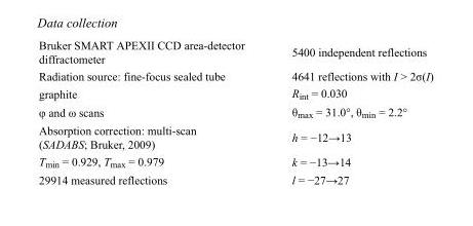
<table><tbody><tr><td>Bruker SMART APEXII CCD area-detector diffractometer</td><td>5400 independent reflections</td></tr><tr><td>Radiation source: fine-focus sealed tube</td><td>4641 reflections with I &gt; 2σ(I)</td></tr><tr><td>graphite</td><td>R<sub>int</sub> = 0.030</td></tr><tr><td>φ and ω scans</td><td>θ<sub>max</sub> = 31.0°, θ<sub>min</sub> = 2.2°</td></tr><tr><td>Absorption correction: multi-scan (SADABS; Bruker, 2009)</td><td>h = −12→13</td></tr><tr><td>T<sub>min</sub> = 0.929, T<sub>max</sub> = 0.979</td><td>k = −13→14</td></tr><tr><td>29914 measured reflections</td><td>l = −27→27</td></tr></tbody></table>